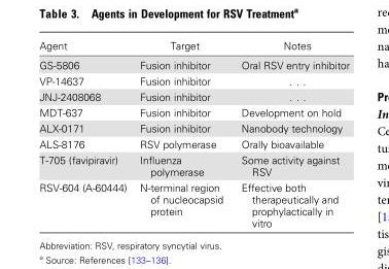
<table><thead><tr><td>Agent</td><td>Target</td><td>Notes</td></tr></thead><tbody><tr><td>GS-5806</td><td>Fusion inhibitor</td><td>Oral RSV entry inhibitor</td></tr><tr><td>VP-14637</td><td>Fusion inhibitor</td><td>. . .</td></tr><tr><td>JNJ-2408068</td><td>Fusion inhibitor</td><td>. . .</td></tr><tr><td>MDT-637</td><td>Fusion inhibitor</td><td>Development on hold</td></tr><tr><td>ALX-0171</td><td>Fusion inhibitor</td><td>Nanobody technology</td></tr><tr><td>ALS-8176</td><td>RSV polymerase</td><td>Orally bioavailable</td></tr><tr><td>T-705 (favipiravir)</td><td>Influenza polymerase</td><td>Some activity against RSV</td></tr><tr><td>RSV-604 (A-60444)</td><td>N-terminal region of nucleocapsid protein</td><td>Effective both therapeutically and prophylactically in vitro</td></tr></tbody></table>